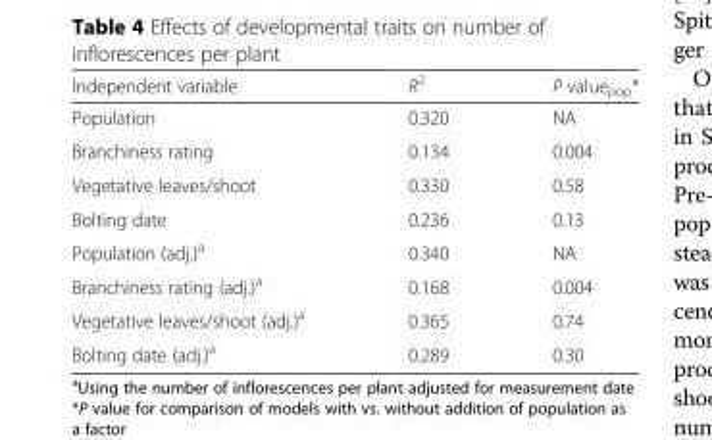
<table><thead><tr><td>Independent variable</td><td>R<sup>2</sup></td><td>P value<sub>pop</sub>*</td></tr></thead><tbody><tr><td>Population</td><td>0.320</td><td>NA</td></tr><tr><td>Branchiness rating</td><td>0.134</td><td>0.004</td></tr><tr><td>Vegetative leaves/shoot</td><td>0.330</td><td>0.58</td></tr><tr><td>Bolting date</td><td>0.236</td><td>0.13</td></tr><tr><td>Population (adj.)<sup>a</sup></td><td>0.340</td><td>NA</td></tr><tr><td>Branchiness rating (adj.)<sup>a</sup></td><td>0.168</td><td>0.004</td></tr><tr><td>Vegetative leaves/shoot (adj.)<sup>a</sup></td><td>0.365</td><td>0.74</td></tr><tr><td>Bolting date (adj.)<sup>a</sup></td><td>0.289</td><td>0.30</td></tr></tbody></table>